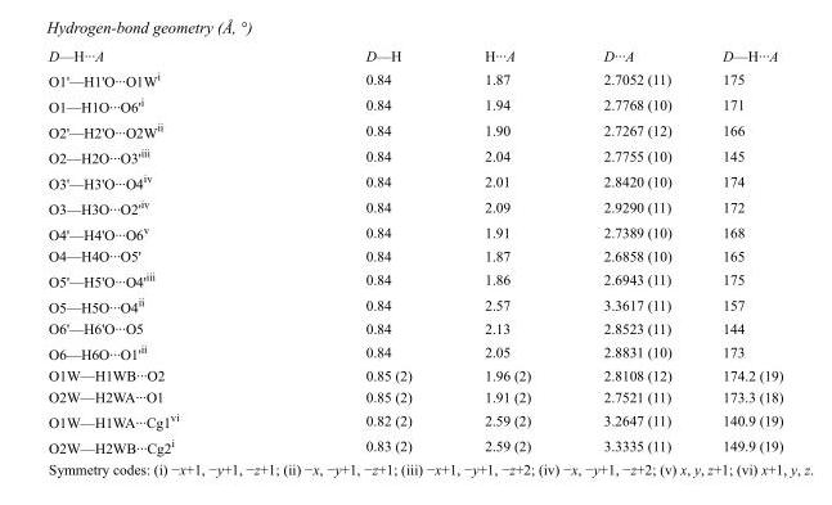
<table><tbody><tr><td>D—H···A</td><td>D—H</td><td>H···A</td><td>D···A</td><td>D—H···A</td></tr><tr><td>O1&#x27;—H1&#x27;O···O1W<sup>i</sup></td><td>0.84</td><td>1.87</td><td>2.7052 (11)</td><td>175</td></tr><tr><td>O1—H1O···O6&#x27;<sup>i</sup></td><td>0.84</td><td>1.94</td><td>2.7768 (10)</td><td>171</td></tr><tr><td>O2&#x27;—H2&#x27;O···O2W<sup>ii</sup></td><td>0.84</td><td>1.90</td><td>2.7267 (12)</td><td>166</td></tr><tr><td>O2—H2O···O3&#x27;<sup>iii</sup></td><td>0.84</td><td>2.04</td><td>2.7755 (10)</td><td>145</td></tr><tr><td>O3&#x27;—H3&#x27;O···O4<sup>iv</sup></td><td>0.84</td><td>2.01</td><td>2.8420 (10)</td><td>174</td></tr><tr><td>O3—H3O···O2&#x27;<sup>iv</sup></td><td>0.84</td><td>2.09</td><td>2.9290 (11)</td><td>172</td></tr><tr><td>O4&#x27;—H4&#x27;O···O6<sup>v</sup></td><td>0.84</td><td>1.91</td><td>2.7389 (10)</td><td>168</td></tr><tr><td>O4—H4O···O5&#x27;</td><td>0.84</td><td>1.87</td><td>2.6858 (10)</td><td>165</td></tr><tr><td>O5&#x27;—H5&#x27;O···O4&#x27;<sup>iii</sup></td><td>0.84</td><td>1.86</td><td>2.6943 (11)</td><td>175</td></tr><tr><td>O5—H5O···O4<sup>ii</sup></td><td>0.84</td><td>2.57</td><td>3.3617 (11)</td><td>157</td></tr><tr><td>O6&#x27;—H6&#x27;O···O5</td><td>0.84</td><td>2.13</td><td>2.8523 (11)</td><td>144</td></tr><tr><td>O6—H6O···O1&#x27;<sup>ii</sup></td><td>0.84</td><td>2.05</td><td>2.8831 (10)</td><td>173</td></tr><tr><td>O1W—H1WB···O2</td><td>0.85 (2)</td><td>1.96 (2)</td><td>2.8108 (12)</td><td>174.2 (19)</td></tr><tr><td>O2W—H2WA···O1</td><td>0.85 (2)</td><td>1.91 (2)</td><td>2.7521 (11)</td><td>173.3 (18)</td></tr><tr><td>O1W—H1WA···Cg1<sup>vi</sup></td><td>0.82 (2)</td><td>2.59 (2)</td><td>3.2647 (11)</td><td>140.9 (19)</td></tr><tr><td>O2W—H2WB···Cg2<sup>i</sup></td><td>0.83 (2)</td><td>2.59 (2)</td><td>3.3335 (11)</td><td>149.9 (19)</td></tr></tbody></table>